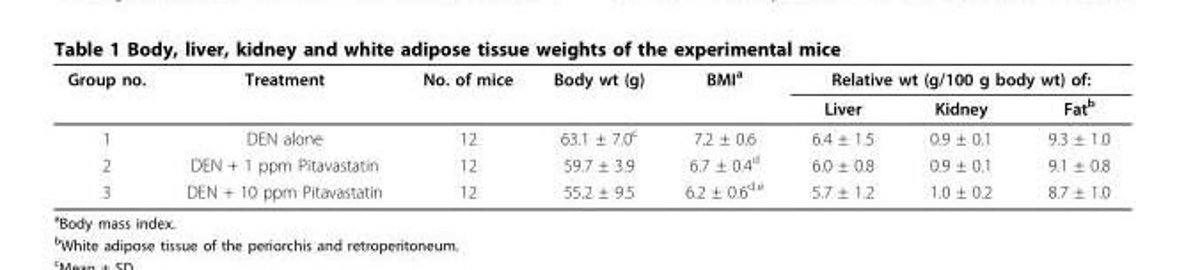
<table><thead><tr><td rowspan="2">Group no.</td><td rowspan="2">Treatment</td><td rowspan="2">No. of mice</td><td rowspan="2">Body wt (g)</td><td rowspan="2">BMI<sup>a</sup></td><td colspan="3">Relative wt (g/100 g body wt) of:</td></tr><tr><td>Liver</td><td>Kidney</td><td>Fat<sup>b</sup></td></tr></thead><tbody><tr><td>1</td><td>DEN alone</td><td>12</td><td>63.1 ± 7.0<sup>c</sup></td><td>7.2 ± 0.6</td><td>6.4 ± 1.5</td><td>0.9 ± 0.1</td><td>9.3 ± 1.0</td></tr><tr><td>2</td><td>DEN + 1 ppm Pitavastatin</td><td>12</td><td>59.7 ± 3.9</td><td>6.7 ± 0.4<sup>d</sup></td><td>6.0 ± 0.8</td><td>0.9 ± 0.1</td><td>9.1 ± 0.8</td></tr><tr><td>3</td><td>DEN + 10 ppm Pitavastatin</td><td>12</td><td>55.2 ± 9.5</td><td>6.2 ± 0.6<sup>d,e</sup></td><td>5.7 ± 1.2</td><td>1.0 ± 0.2</td><td>8.7 ± 1.0</td></tr></tbody></table>